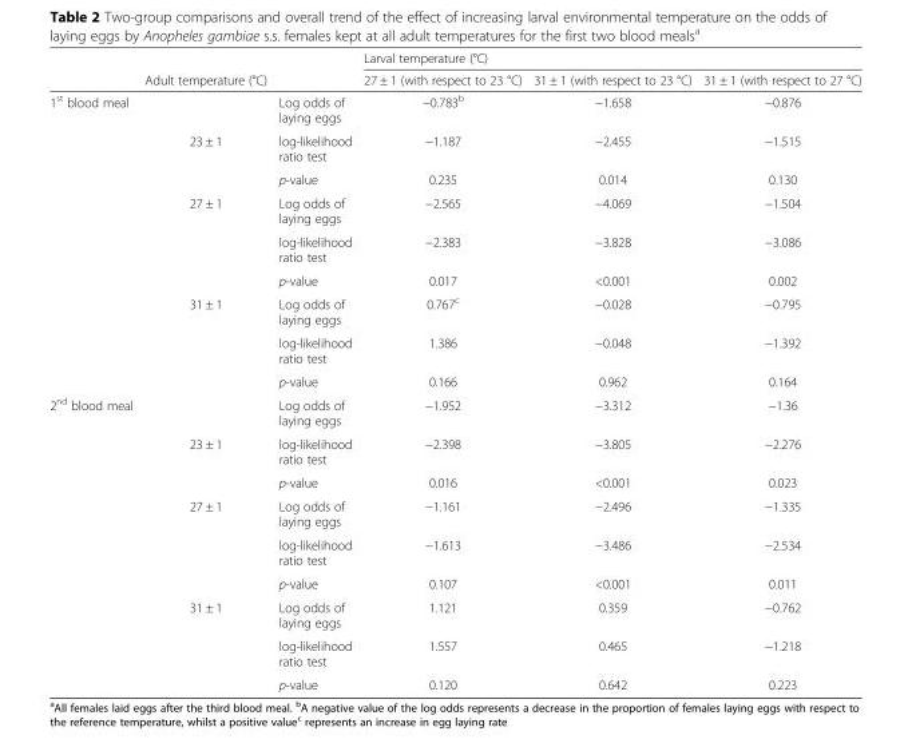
<table><thead><tr><td rowspan="2"></td><td rowspan="2">Adult temperature (°C)</td><td rowspan="2"></td><td colspan="3">Larval temperature (°C)</td></tr><tr><td>27 ± 1 (with respect to 23 °C)</td><td>31 ± 1 (with respect to 23 °C)</td><td>31 ± 1 (with respect to 27 °C)</td></tr></thead><tbody><tr><td rowspan="9">1<sup>st</sup> blood meal</td><td></td><td>Log odds of laying eggs</td><td>−0.783<sup>b</sup></td><td>−1.658</td><td>−0.876</td></tr><tr><td rowspan="2">23 ± 1</td><td>log-likelihood ratio test</td><td>−1.187</td><td>−2.455</td><td>−1.515</td></tr><tr><td>p-value</td><td>0.235</td><td>0.014</td><td>0.130</td></tr><tr><td rowspan="3">27 ± 1</td><td>Log odds of laying eggs</td><td>−2.565</td><td>−4.069</td><td>−1.504</td></tr><tr><td>log-likelihood ratio test</td><td>−2.383</td><td>−3.828</td><td>−3.086</td></tr><tr><td>p-value</td><td>0.017</td><td>&lt;0.001</td><td>0.002</td></tr><tr><td rowspan="3">31 ± 1</td><td>Log odds of laying eggs</td><td>0.767<sup>c</sup></td><td>−0.028</td><td>−0.795</td></tr><tr><td>log-likelihood ratio test</td><td>1.386</td><td>−0.048</td><td>−1.392</td></tr><tr><td>p-value</td><td>0.166</td><td>0.962</td><td>0.164</td></tr><tr><td rowspan="9">2<sup>nd</sup> blood meal</td><td></td><td>Log odds of laying eggs</td><td>−1.952</td><td>−3.312</td><td>−1.36</td></tr><tr><td rowspan="2">23 ± 1</td><td>log-likelihood ratio test</td><td>−2.398</td><td>−3.805</td><td>−2.276</td></tr><tr><td>p-value</td><td>0.016</td><td>&lt;0.001</td><td>0.023</td></tr><tr><td rowspan="3">27 ± 1</td><td>Log odds of laying eggs</td><td>−1.161</td><td>−2.496</td><td>−1.335</td></tr><tr><td>log-likelihood ratio test</td><td>−1.613</td><td>−3.486</td><td>−2.534</td></tr><tr><td>p-value</td><td>0.107</td><td>&lt;0.001</td><td>0.011</td></tr><tr><td rowspan="3">31 ± 1</td><td>Log odds of laying eggs</td><td>1.121</td><td>0.359</td><td>−0.762</td></tr><tr><td>log-likelihood ratio test</td><td>1.557</td><td>0.465</td><td>−1.218</td></tr><tr><td>p-value</td><td>0.120</td><td>0.642</td><td>0.223</td></tr></tbody></table>